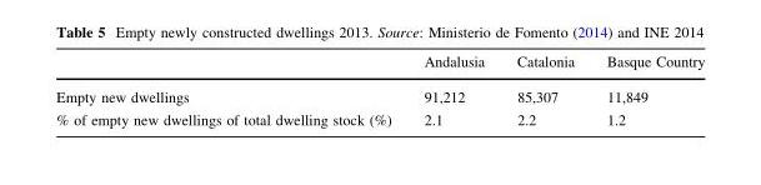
<table><thead><tr><td></td><td>Andalusia</td><td>Catalonia</td><td>Basque Country</td></tr></thead><tbody><tr><td>Empty new dwellings</td><td>91,212</td><td>85,307</td><td>11,849</td></tr><tr><td>% of empty new dwellings of total dwelling stock (%)</td><td>2.1</td><td>2.2</td><td>1.2</td></tr></tbody></table>